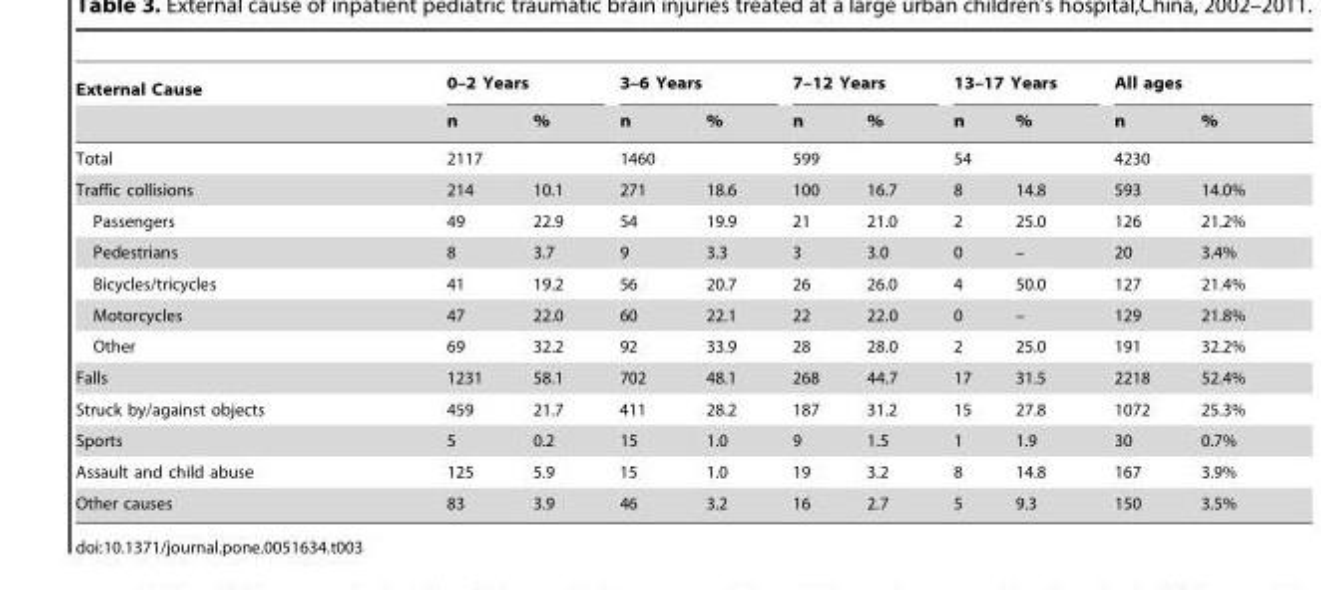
<table><thead><tr><td rowspan="2">External Cause</td><td colspan="2">0–2 Years</td><td colspan="2">3–6 Years</td><td colspan="2">7–12 Years</td><td colspan="2">13–17 Years</td><td colspan="2">All ages</td></tr><tr><td>n</td><td>%</td><td>n</td><td>%</td><td>n</td><td>%</td><td>n</td><td>%</td><td>n</td><td>%</td></tr></thead><tbody><tr><td>Total</td><td>2117</td><td></td><td>1460</td><td></td><td>599</td><td></td><td>54</td><td></td><td>4230</td><td></td></tr><tr><td>Traffic collisions</td><td>214</td><td>10.1</td><td>271</td><td>18.6</td><td>100</td><td>16.7</td><td>8</td><td>14.8</td><td>593</td><td>14.0%</td></tr><tr><td>Passengers</td><td>49</td><td>22.9</td><td>54</td><td>19.9</td><td>21</td><td>21.0</td><td>2</td><td>25.0</td><td>126</td><td>21.2%</td></tr><tr><td>Pedestrians</td><td>8</td><td>3.7</td><td>9</td><td>3.3</td><td>3</td><td>3.0</td><td>0</td><td>–</td><td>20</td><td>3.4%</td></tr><tr><td>Bicycles/tricycles</td><td>41</td><td>19.2</td><td>56</td><td>20.7</td><td>26</td><td>26.0</td><td>4</td><td>50.0</td><td>127</td><td>21.4%</td></tr><tr><td>Motorcycles</td><td>47</td><td>22.0</td><td>60</td><td>22.1</td><td>22</td><td>22.0</td><td>0</td><td>–</td><td>129</td><td>21.8%</td></tr><tr><td>Other</td><td>69</td><td>32.2</td><td>92</td><td>33.9</td><td>28</td><td>28.0</td><td>2</td><td>25.0</td><td>191</td><td>32.2%</td></tr><tr><td>Falls</td><td>1231</td><td>58.1</td><td>702</td><td>48.1</td><td>268</td><td>44.7</td><td>17</td><td>31.5</td><td>2218</td><td>52.4%</td></tr><tr><td>Struck by/against objects</td><td>459</td><td>21.7</td><td>411</td><td>28.2</td><td>187</td><td>31.2</td><td>15</td><td>27.8</td><td>1072</td><td>25.3%</td></tr><tr><td>Sports</td><td>5</td><td>0.2</td><td>15</td><td>1.0</td><td>9</td><td>1.5</td><td>1</td><td>1.9</td><td>30</td><td>0.7%</td></tr><tr><td>Assault and child abuse</td><td>125</td><td>5.9</td><td>15</td><td>1.0</td><td>19</td><td>3.2</td><td>8</td><td>14.8</td><td>167</td><td>3.9%</td></tr><tr><td>Other causes</td><td>83</td><td>3.9</td><td>46</td><td>3.2</td><td>16</td><td>2.7</td><td>5</td><td>9.3</td><td>150</td><td>3.5%</td></tr></tbody></table>